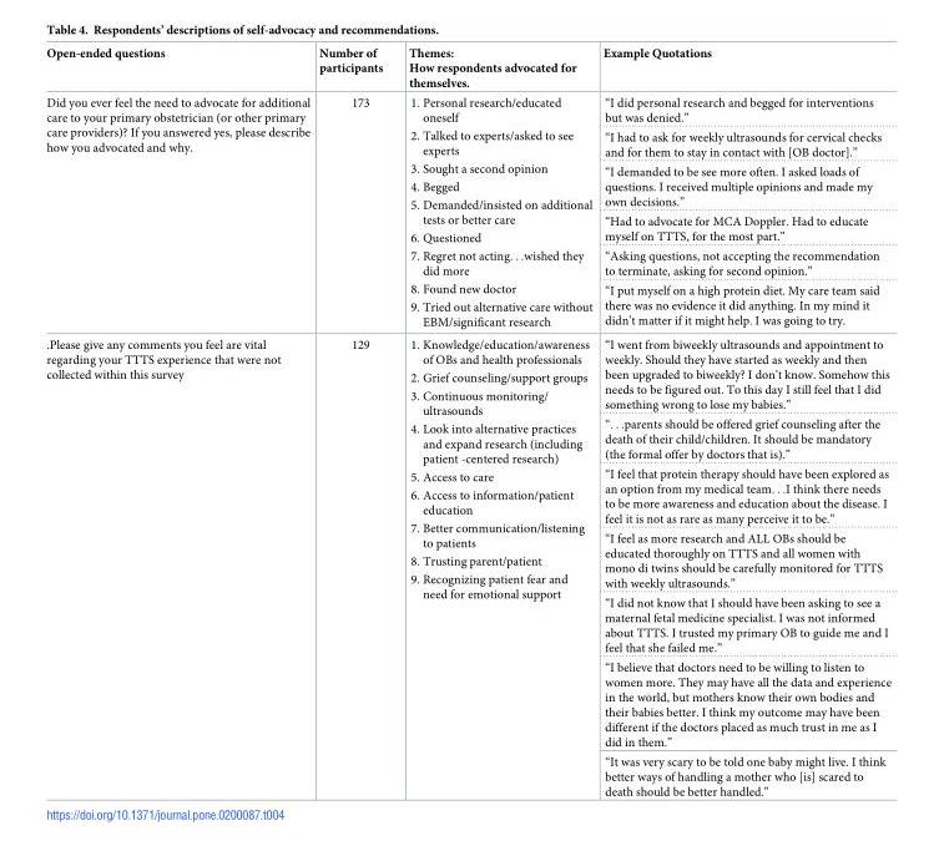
<table><thead><tr><td>Open-ended questions</td><td>Number of participants</td><td>Themes: How respondents advocated for themselves.</td><td>Example Quotations</td></tr></thead><tbody><tr><td rowspan="6">Did you ever feel the need to advocate for additional care to your primary obstetrician (or other primary care providers)? If you answered yes, please describe how you advocated and why.</td><td rowspan="6">173</td><td rowspan="6">1. Personal research/educated oneself 2. Talked to experts/asked to see experts 3. Sought a second opinion 4. Begged 5. Demanded/insisted on additional tests or better care 6. Questioned 7. Regret not acting. . .wished they did more 8. Found new doctor 9. Tried out alternative care without EBM/significant research</td><td>“I did personal research and begged for interventions but was denied.”</td></tr><tr><td>“I had to ask for weekly ultrasounds for cervical checks and for them to stay in contact with [OB doctor].”</td></tr><tr><td>“I demanded to be see more often. I asked loads of questions. I received multiple opinions and made my own decisions.”</td></tr><tr><td>“Had to advocate for MCA Doppler. Had to educate myself on TTTS, for the most part.”</td></tr><tr><td>“Asking questions, not accepting the recommendation to terminate, asking for second opinion.”</td></tr><tr><td>“I put myself on a high protein diet. My care team said there was no evidence it did anything. In my mind it didn’t matter if it might help. I was going to try.</td></tr><tr><td rowspan="7">.Please give any comments you feel are vital regarding your TTTS experience that were not collected within this survey</td><td rowspan="7">129</td><td rowspan="7">1. Knowledge/education/awareness of OBs and health professionals 2. Grief counseling/support groups 3. Continuous monitoring/ ultrasounds 4. Look into alternative practices and expand research (including patient -centered research) 5. Access to care 6. Access to information/patient education 7. Better communication/listening to patients 8. Trusting parent/patient 9. Recognizing patient fear and need for emotional support</td><td>“I went from biweekly ultrasounds and appointment to weekly. Should they have started as weekly and then been upgraded to biweekly? I don’t know. Somehow this needs to be figured out. To this day I still feel that I did something wrong to lose my babies.”</td></tr><tr><td>“. . .parents should be offered grief counseling after the death of their child/children. It should be mandatory (the formal offer by doctors that is).”</td></tr><tr><td>“I feel that protein therapy should have been explored as an option from my medical team. . .I think there needs to be more awareness and education about the disease. I feel it is not as rare as many perceive it to be.”</td></tr><tr><td>“I feel as more research and ALL OBs should be educated thoroughly on TTTS and all women with mono di twins should be carefully monitored for TTTS with weekly ultrasounds.”</td></tr><tr><td>“I did not know that I should have been asking to see a maternal fetal medicine specialist. I was not informed about TTTS. I trusted my primary OB to guide me and I feel that she failed me.”</td></tr><tr><td>“I believe that doctors need to be willing to listen to women more. They may have all the data and experience in the world, but mothers know their own bodies and their babies better. I think my outcome may have been different if the doctors placed as much trust in me as I did in them.”</td></tr><tr><td>“It was very scary to be told one baby might live. I think better ways of handling a mother who [is] scared to death should be better handled.”</td></tr></tbody></table>